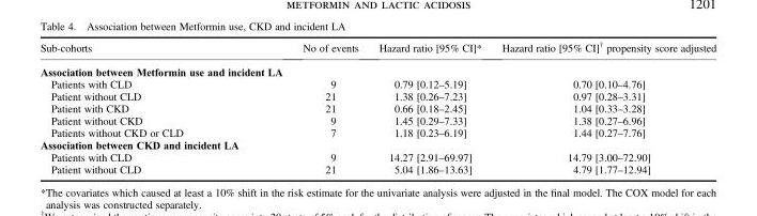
<table><thead><tr><td>Sub-cohorts</td><td>No of events</td><td>Hazard ratio [95% CI]*</td><td>Hazard ratio [95% CI]† propensity score adjusted</td></tr></thead><tbody><tr><td colspan="4">Association between Metformin use and incident LA</td></tr><tr><td>Patients with CLD</td><td>9</td><td>0.79 [0.12–5.19]</td><td>0.70 [0.10–4.76]</td></tr><tr><td>Patient without CLD</td><td>21</td><td>1.38 [0.26–7.23]</td><td>0.97 [0.28–3.31]</td></tr><tr><td>Patient with CKD</td><td>21</td><td>0.66 [0.18–2.45]</td><td>1.04 [0.33–3.28]</td></tr><tr><td>Patient without CKD</td><td>9</td><td>1.45 [0.29–7.33]</td><td>1.38 [0.27–6.96]</td></tr><tr><td>Patients without CKD or CLD</td><td>7</td><td>1.18 [0.23–6.19]</td><td>1.44 [0.27–7.76]</td></tr><tr><td colspan="4">Association between CKD and incident LA</td></tr><tr><td>Patients with CLD</td><td>9</td><td>14.27 [2.91–69.97]</td><td>14.79 [3.00–72.90]</td></tr><tr><td>Patient without CLD</td><td>21</td><td>5.04 [1.86–13.63]</td><td>4.79 [1.77–12.94]</td></tr></tbody></table>